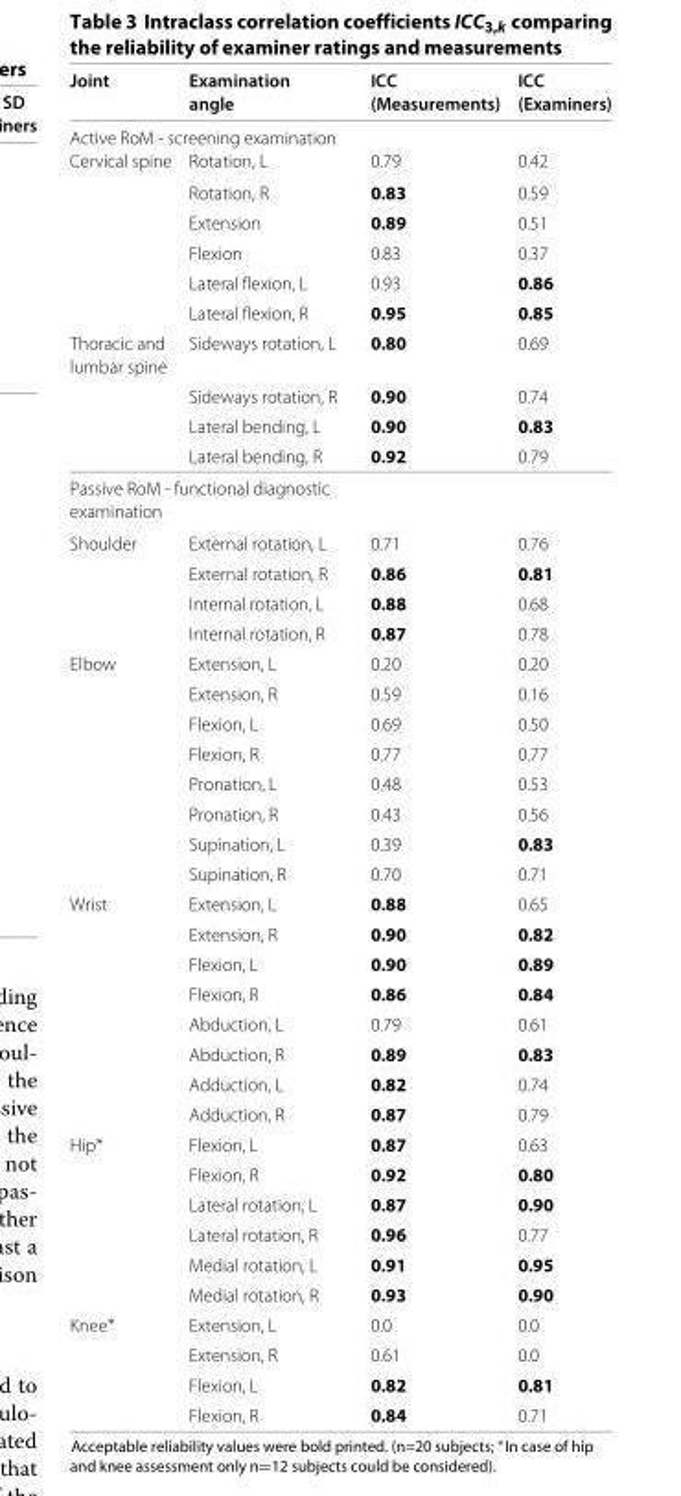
<table><thead><tr><td rowspan="2">Joint</td><td rowspan="2">Examination angle</td><td rowspan="2">ICC (Measurements)</td><td rowspan="2">ICC (Examiners)</td></tr><tr></tr></thead><tbody><tr><td colspan="4">Active RoM - screening examination</td></tr><tr><td rowspan="6">Cervical spine</td><td>Rotation, L</td><td>0.79</td><td>0.42</td></tr><tr><td>Rotation, R</td><td>0.83</td><td>0.59</td></tr><tr><td>Extension</td><td>0.89</td><td>0.51</td></tr><tr><td>Flexion</td><td>0.83</td><td>0.37</td></tr><tr><td>Lateral flexion, L</td><td>0.93</td><td>0.86</td></tr><tr><td>Lateral flexion, R</td><td>0.95</td><td>0.85</td></tr><tr><td>Thoracic and</td><td>Sideways rotation, L</td><td>0.80</td><td>0.69</td></tr><tr><td colspan="4">lumbar spine</td></tr><tr><td></td><td>Sideways rotation, R</td><td>0.90</td><td>0.74</td></tr><tr><td></td><td>Lateral bending, L</td><td>0.90</td><td>0.83</td></tr><tr><td></td><td>Lateral bending, R</td><td>0.92</td><td>0.79</td></tr><tr><td colspan="4">Passive RoM - functional diagnostic</td></tr><tr><td colspan="4">examination</td></tr><tr><td rowspan="4">Shoulder</td><td>External rotation, L</td><td>0.71</td><td>0.76</td></tr><tr><td>External rotation, R</td><td>0.86</td><td>0.81</td></tr><tr><td>Internal rotation, L</td><td>0.88</td><td>0.68</td></tr><tr><td>Internal rotation, R</td><td>0.87</td><td>0.78</td></tr><tr><td rowspan="8">Elbow</td><td>Extension, L</td><td>0.20</td><td>0.20</td></tr><tr><td>Extension, R</td><td>0.59</td><td>0.16</td></tr><tr><td>Flexion, L</td><td>0.69</td><td>0.50</td></tr><tr><td>Flexion, R</td><td>0.77</td><td>0.77</td></tr><tr><td>Pronation, L</td><td>0.48</td><td>0.53</td></tr><tr><td>Pronation, R</td><td>0.43</td><td>0.56</td></tr><tr><td>Supination, L</td><td>0.39</td><td>0.83</td></tr><tr><td>Supination, R</td><td>0.70</td><td>0.71</td></tr><tr><td rowspan="8">Wrist</td><td>Extension, L</td><td>0.88</td><td>0.65</td></tr><tr><td>Extension, R</td><td>0.90</td><td>0.82</td></tr><tr><td>Flexion, L</td><td>0.90</td><td>0.89</td></tr><tr><td>Flexion, R</td><td>0.86</td><td>0.84</td></tr><tr><td>Abduction, L</td><td>0.79</td><td>0.61</td></tr><tr><td>Abduction, R</td><td>0.89</td><td>0.83</td></tr><tr><td>Adduction, L</td><td>0.82</td><td>0.74</td></tr><tr><td>Adduction, R</td><td>0.87</td><td>0.79</td></tr><tr><td rowspan="6">Hip∗</td><td>Flexion, L</td><td>0.87</td><td>0.63</td></tr><tr><td>Flexion, R</td><td>0.92</td><td>0.80</td></tr><tr><td>Lateral rotation, L</td><td>0.87</td><td>0.90</td></tr><tr><td>Lateral rotation, R</td><td>0.96</td><td>0.77</td></tr><tr><td>Medial rotation, L</td><td>0.91</td><td>0.95</td></tr><tr><td>Medial rotation, R</td><td>0.93</td><td>0.90</td></tr><tr><td rowspan="4">Knee∗</td><td>Extension, L</td><td>0.0</td><td>0.0</td></tr><tr><td>Extension, R</td><td>0.61</td><td>0.0</td></tr><tr><td>Flexion, L</td><td>0.82</td><td>0.81</td></tr><tr><td>Flexion, R</td><td>0.84</td><td>0.71</td></tr></tbody></table>